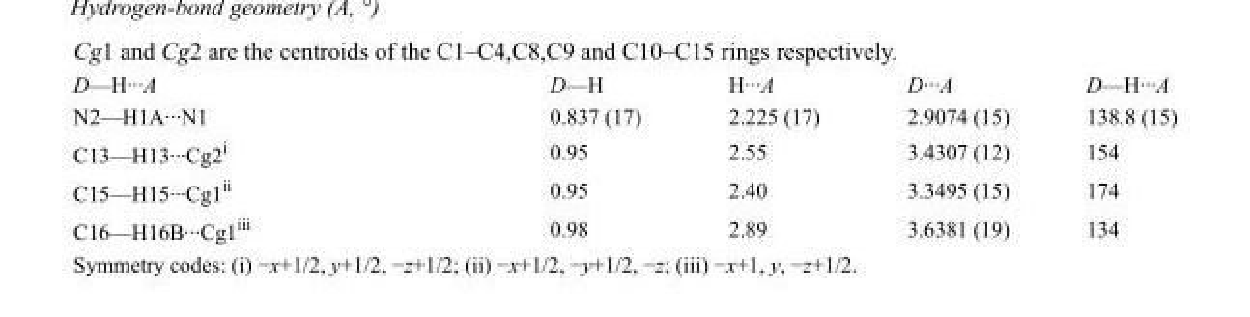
<table><tbody><tr><td>D—H···A</td><td>D—H</td><td>H···A</td><td>D···A</td><td>D—H···A</td></tr><tr><td>N2—H1A···N1</td><td>0.837 (17)</td><td>2.225 (17)</td><td>2.9074 (15)</td><td>138.8 (15)</td></tr><tr><td>C13—H13···Cg2<sup>i</sup></td><td>0.95</td><td>2.55</td><td>3.4307 (12)</td><td>154</td></tr><tr><td>C15—H15···Cg1<sup>ii</sup></td><td>0.95</td><td>2.40</td><td>3.3495 (15)</td><td>174</td></tr><tr><td>C16—H16B···Cg1<sup>iii</sup></td><td>0.98</td><td>2.89</td><td>3.6381 (19)</td><td>134</td></tr></tbody></table>